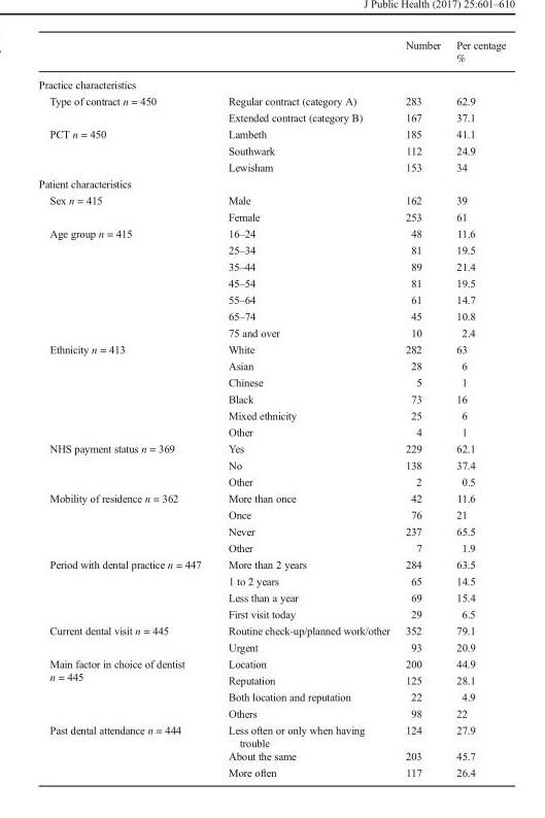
<table><thead><tr><td></td><td></td><td>Number</td><td>Per centage %</td></tr></thead><tbody><tr><td colspan="4">Practice characteristics</td></tr><tr><td rowspan="2">Type of contract n = 450</td><td>Regular contract (category A)</td><td>283</td><td>62.9</td></tr><tr><td>Extended contract (category B)</td><td>167</td><td>37.1</td></tr><tr><td rowspan="3">PCT n = 450</td><td>Lambeth</td><td>185</td><td>41.1</td></tr><tr><td>Southwark</td><td>112</td><td>24.9</td></tr><tr><td>Lewisham</td><td>153</td><td>34</td></tr><tr><td colspan="4">Patient characteristics</td></tr><tr><td rowspan="2">Sex n = 415</td><td>Male</td><td>162</td><td>39</td></tr><tr><td>Female</td><td>253</td><td>61</td></tr><tr><td rowspan="7">Age group n = 415</td><td>16–24</td><td>48</td><td>11.6</td></tr><tr><td>25–34</td><td>81</td><td>19.5</td></tr><tr><td>35–44</td><td>89</td><td>21.4</td></tr><tr><td>45–54</td><td>81</td><td>19.5</td></tr><tr><td>55–64</td><td>61</td><td>14.7</td></tr><tr><td>65–74</td><td>45</td><td>10.8</td></tr><tr><td>75 and over</td><td>10</td><td>2.4</td></tr><tr><td rowspan="6">Ethnicity n = 413</td><td>White</td><td>282</td><td>63</td></tr><tr><td>Asian</td><td>28</td><td>6</td></tr><tr><td>Chinese</td><td>5</td><td>1</td></tr><tr><td>Black</td><td>73</td><td>16</td></tr><tr><td>Mixed ethnicity</td><td>25</td><td>6</td></tr><tr><td>Other</td><td>4</td><td>1</td></tr><tr><td rowspan="3">NHS payment status n = 369</td><td>Yes</td><td>229</td><td>62.1</td></tr><tr><td>No</td><td>138</td><td>37.4</td></tr><tr><td>Other</td><td>2</td><td>0.5</td></tr><tr><td rowspan="4">Mobility of residence n = 362</td><td>More than once</td><td>42</td><td>11.6</td></tr><tr><td>Once</td><td>76</td><td>21</td></tr><tr><td>Never</td><td>237</td><td>65.5</td></tr><tr><td>Other</td><td>7</td><td>1.9</td></tr><tr><td rowspan="4">Period with dental practice n = 447</td><td>More than 2 years</td><td>284</td><td>63.5</td></tr><tr><td>1 to 2 years</td><td>65</td><td>14.5</td></tr><tr><td>Less than a year</td><td>69</td><td>15.4</td></tr><tr><td>First visit today</td><td>29</td><td>6.5</td></tr><tr><td rowspan="2">Current dental visit n = 445</td><td>Routine check-up/planned work/other</td><td>352</td><td>79.1</td></tr><tr><td>Urgent</td><td>93</td><td>20.9</td></tr><tr><td rowspan="4">Main factor in choice of dentist n = 445</td><td>Location</td><td>200</td><td>44.9</td></tr><tr><td>Reputation</td><td>125</td><td>28.1</td></tr><tr><td>Both location and reputation</td><td>22</td><td>4.9</td></tr><tr><td>Others</td><td>98</td><td>22</td></tr><tr><td rowspan="3">Past dental attendance n = 444</td><td>Less often or only when having trouble</td><td>124</td><td>27.9</td></tr><tr><td>About the same</td><td>203</td><td>45.7</td></tr><tr><td>More often</td><td>117</td><td>26.4</td></tr></tbody></table>